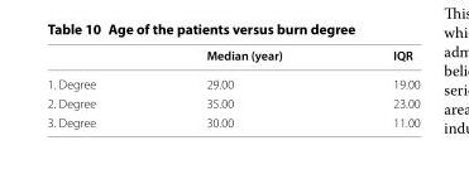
<table><thead><tr><td></td><td>Median (year)</td><td>IQR</td></tr></thead><tbody><tr><td>1. Degree</td><td>29.00</td><td>19.00</td></tr><tr><td>2. Degree</td><td>35.00</td><td>23.00</td></tr><tr><td>3. Degree</td><td>30.00</td><td>11.00</td></tr></tbody></table>